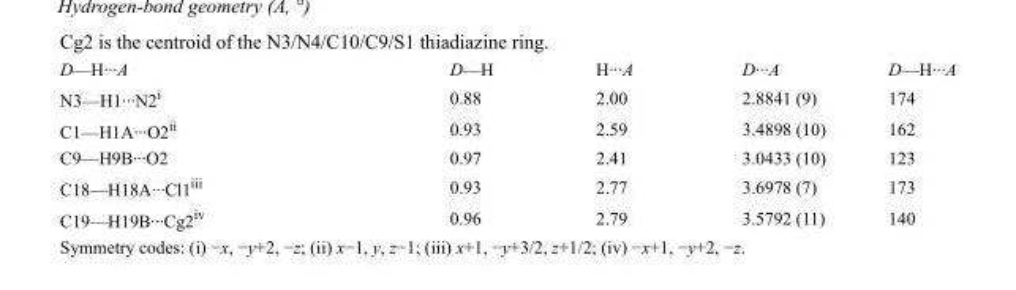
<table><tbody><tr><td>D—H···A</td><td>D—H</td><td>H···A</td><td>D···A</td><td>D—H···A</td></tr><tr><td>N3—H1···N2<sup>i</sup></td><td>0.88</td><td>2.00</td><td>2.8841 (9)</td><td>174</td></tr><tr><td>C1—H1A···O2<sup>ii</sup></td><td>0.93</td><td>2.59</td><td>3.4898 (10)</td><td>162</td></tr><tr><td>C9—H9B···O2</td><td>0.97</td><td>2.41</td><td>3.0433 (10)</td><td>123</td></tr><tr><td>C18—H18A···Cl1<sup>iii</sup></td><td>0.93</td><td>2.77</td><td>3.6978 (7)</td><td>173</td></tr><tr><td>C19—H19B···Cg2<sup>iv</sup></td><td>0.96</td><td>2.79</td><td>3.5792 (11)</td><td>140</td></tr></tbody></table>